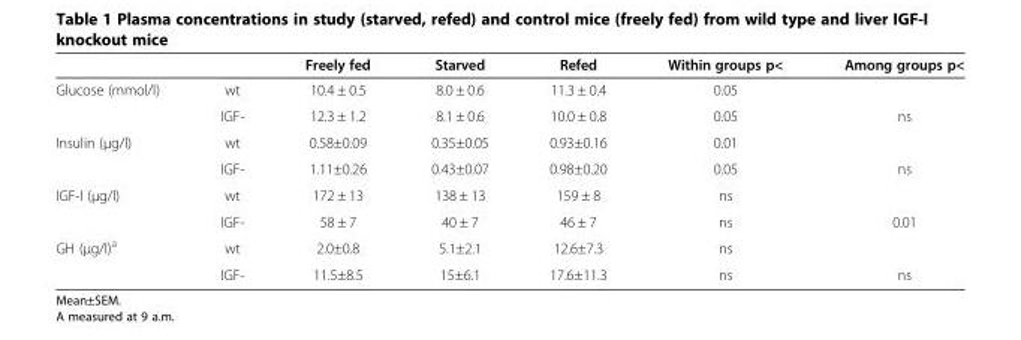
<table><thead><tr><td></td><td></td><td>Freely fed</td><td>Starved</td><td>Refed</td><td>Within groups p&lt;</td><td>Among groups p&lt;</td></tr></thead><tbody><tr><td rowspan="2">Glucose (mmol/l)</td><td>wt</td><td>10.4 ± 0.5</td><td>8.0 ± 0.6</td><td>11.3 ± 0.4</td><td>0.05</td><td></td></tr><tr><td>IGF-</td><td>12.3 ± 1.2</td><td>8.1 ± 0.6</td><td>10.0 ± 0.8</td><td>0.05</td><td>ns</td></tr><tr><td rowspan="2">Insulin (μg/l)</td><td>wt</td><td>0.58±0.09</td><td>0.35±0.05</td><td>0.93±0.16</td><td>0.01</td><td></td></tr><tr><td>IGF-</td><td>1.11±0.26</td><td>0.43±0.07</td><td>0.98±0.20</td><td>0.05</td><td>ns</td></tr><tr><td rowspan="2">IGF-I (μg/l)</td><td>wt</td><td>172 ± 13</td><td>138 ± 13</td><td>159 ± 8</td><td>ns</td><td></td></tr><tr><td>IGF-</td><td>58 ± 7</td><td>40 ± 7</td><td>46 ± 7</td><td>ns</td><td>0.01</td></tr><tr><td rowspan="2">GH (μg/l)<sup>a</sup></td><td>wt</td><td>2.0±0.8</td><td>5.1±2.1</td><td>12.6±7.3</td><td>ns</td><td></td></tr><tr><td>IGF-</td><td>11.5±8.5</td><td>15±6.1</td><td>17.6±11.3</td><td>ns</td><td>ns</td></tr></tbody></table>